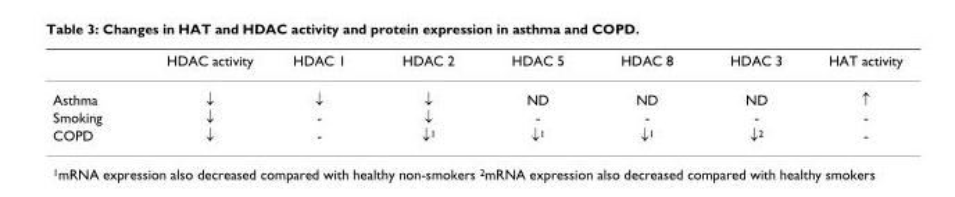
<table><thead><tr><td></td><td>HDAC activity</td><td>HDAC 1</td><td>HDAC 2</td><td>HDAC 5</td><td>HDAC 8</td><td>HDAC 3</td><td>HAT activity</td></tr></thead><tbody><tr><td>Asthma</td><td>↓</td><td>↓</td><td>↓</td><td>ND</td><td>ND</td><td>ND</td><td>↑</td></tr><tr><td>Smoking</td><td>↓</td><td>-</td><td>↓</td><td>-</td><td>-</td><td>-</td><td>-</td></tr><tr><td>COPD</td><td>↓</td><td>-</td><td>↓<sup>1</sup></td><td>↓<sup>1</sup></td><td>↓<sup>1</sup></td><td>↓<sup>2</sup></td><td>-</td></tr></tbody></table>